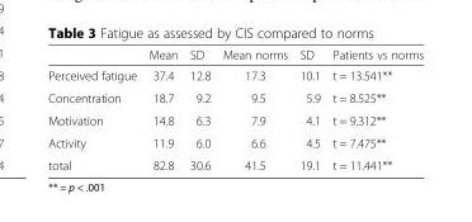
<table><thead><tr><td></td><td>Mean</td><td>SD</td><td>Mean norms</td><td>SD</td><td>Patients vs norms</td></tr></thead><tbody><tr><td>Perceived fatigue</td><td>37.4</td><td>12.8</td><td>17.3</td><td>10.1</td><td>t = 13.541**</td></tr><tr><td>Concentration</td><td>18.7</td><td>9.2</td><td>9.5</td><td>5.9</td><td>t = 8.525**</td></tr><tr><td>Motivation</td><td>14.8</td><td>6.3</td><td>7.9</td><td>4.1</td><td>t = 9.312**</td></tr><tr><td>Activity</td><td>11.9</td><td>6.0</td><td>6.6</td><td>4.5</td><td>t = 7.475**</td></tr><tr><td>total</td><td>82.8</td><td>30.6</td><td>41.5</td><td>19.1</td><td>t = 11.441**</td></tr></tbody></table>